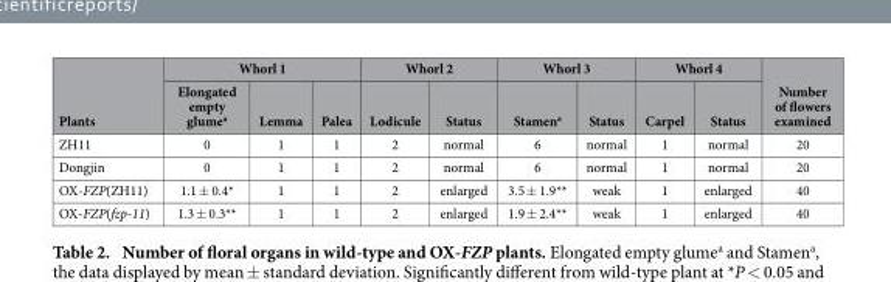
<table><thead><tr><td rowspan="2">Plants</td><td colspan="3">Whorl 1</td><td colspan="2">Whorl 2</td><td colspan="2">Whorl 3</td><td colspan="2">Whorl 4</td><td rowspan="2">Number of flowers examined</td></tr><tr><td>Elongated empty glume<sup>a</sup></td><td>Lemma</td><td>Palea</td><td>Lodicule</td><td>Status</td><td>Stamen<sup>a</sup></td><td>Status</td><td>Carpel</td><td>Status</td></tr></thead><tbody><tr><td>ZH11</td><td>0</td><td>1</td><td>1</td><td>2</td><td>normal</td><td>6</td><td>normal</td><td>1</td><td>normal</td><td>20</td></tr><tr><td>Dongjin</td><td>0</td><td>1</td><td>1</td><td>2</td><td>normal</td><td>6</td><td>normal</td><td>1</td><td>normal</td><td>20</td></tr><tr><td>OX-FZP(ZH11)</td><td>1.1 ± 0.4*</td><td>1</td><td>1</td><td>2</td><td>enlarged</td><td>3.5 ± 1.9**</td><td>weak</td><td>1</td><td>enlarged</td><td>40</td></tr><tr><td>OX-FZP(fzp-11)</td><td>1.3 ± 0.3**</td><td>1</td><td>1</td><td>2</td><td>enlarged</td><td>1.9 ± 2.4**</td><td>weak</td><td>1</td><td>enlarged</td><td>40</td></tr></tbody></table>